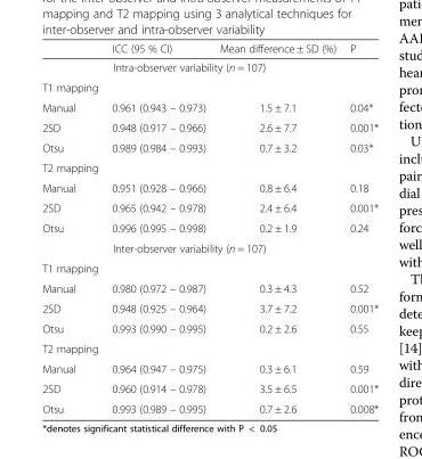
<table><thead><tr><td></td><td>ICC (95 % CI)</td><td>Mean difference ± SD (%)</td><td>P</td></tr></thead><tbody><tr><td colspan="4">Intra-observer variability (n = 107)</td></tr><tr><td colspan="4">T1 mapping</td></tr><tr><td>Manual</td><td>0.961 (0.943 – 0.973)</td><td>1.5 ± 7.1</td><td>0.04*</td></tr><tr><td>2SD</td><td>0.948 (0.917 – 0.966)</td><td>2.6 ± 7.7</td><td>0.001*</td></tr><tr><td>Otsu</td><td>0.989 (0.984 – 0.993)</td><td>0.7 ± 3.2</td><td>0.03*</td></tr><tr><td colspan="4">T2 mapping</td></tr><tr><td>Manual</td><td>0.951 (0.928 – 0.966)</td><td>0.8 ± 6.4</td><td>0.18</td></tr><tr><td>2SD</td><td>0.965 (0.942 – 0.978)</td><td>2.4 ± 6.4</td><td>0.001*</td></tr><tr><td>Otsu</td><td>0.996 (0.995 – 0.998)</td><td>0.2 ± 1.9</td><td>0.24</td></tr><tr><td colspan="4">Inter-observer variability (n = 107)</td></tr><tr><td colspan="4">T1 mapping</td></tr><tr><td>Manual</td><td>0.980 (0.972 – 0.987)</td><td>0.3 ± 4.3</td><td>0.52</td></tr><tr><td>2SD</td><td>0.948 (0.925 – 0.964)</td><td>3.7 ± 7.2</td><td>0.001*</td></tr><tr><td>Otsu</td><td>0.993 (0.990 – 0.995)</td><td>0.2 ± 2.6</td><td>0.55</td></tr><tr><td colspan="4">T2 mapping</td></tr><tr><td>Manual</td><td>0.964 (0.947 – 0.975)</td><td>0.3 ± 6.1</td><td>0.59</td></tr><tr><td>2SD</td><td>0.960 (0.914 – 0.978)</td><td>3.5 ± 6.5</td><td>0.001*</td></tr><tr><td>Otsu</td><td>0.993 (0.989 – 0.995)</td><td>0.7 ± 2.6</td><td>0.008*</td></tr></tbody></table>